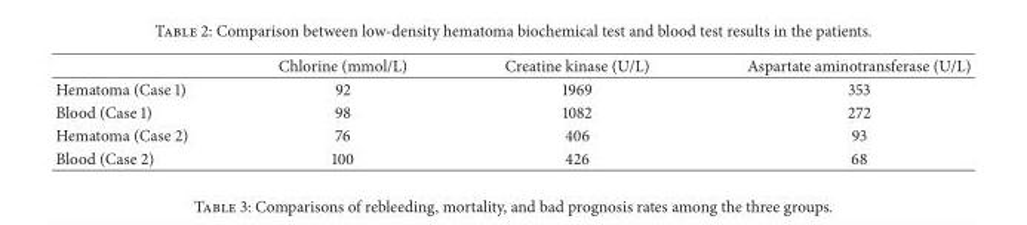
<table><thead><tr><td></td><td>Chlorine (mmol/L)</td><td>Creatine kinase (U/L)</td><td>Aspartate aminotransferase (U/L)</td></tr></thead><tbody><tr><td>Hematoma (Case 1)</td><td>92</td><td>1969</td><td>353</td></tr><tr><td>Blood (Case 1)</td><td>98</td><td>1082</td><td>272</td></tr><tr><td>Hematoma (Case 2)</td><td>76</td><td>406</td><td>93</td></tr><tr><td>Blood (Case 2)</td><td>100</td><td>426</td><td>68</td></tr></tbody></table>